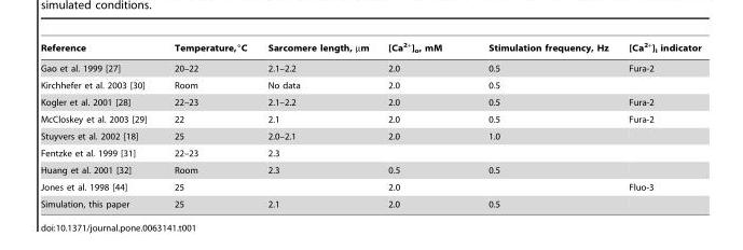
<table><thead><tr><td>Reference</td><td>Temperature,°C</td><td>Sarcomere length, µm</td><td>[Ca<sup>2+</sup>]<sub>o</sub>, mM</td><td>Stimulation frequency, Hz</td><td>[Ca<sup>2+</sup>]<sub>i</sub> indicator</td></tr></thead><tbody><tr><td>Gao et al. 1999 [27]</td><td>20–22</td><td>2.1–2.2</td><td>2.0</td><td>0.5</td><td>Fura-2</td></tr><tr><td>Kirchhefer et al. 2003 [30]</td><td>Room</td><td>No data</td><td>2.0</td><td>0.5</td><td></td></tr><tr><td>Kogler et al. 2001 [28]</td><td>22–23</td><td>2.1–2.2</td><td>2.0</td><td>0.5</td><td>Fura-2</td></tr><tr><td>McCloskey et al. 2003 [29]</td><td>22</td><td>2.1</td><td>2.0</td><td>0.5</td><td>Fura-2</td></tr><tr><td>Stuyvers et al. 2002 [18]</td><td>25</td><td>2.0–2.1</td><td>2.0</td><td>1.0</td><td></td></tr><tr><td>Fentzke et al. 1999 [31]</td><td>22–23</td><td>2.3</td><td></td><td></td><td></td></tr><tr><td>Huang et al. 2001 [32]</td><td>Room</td><td>2.3</td><td>0.5</td><td>0.5</td><td></td></tr><tr><td>Jones et al. 1998 [44]</td><td>25</td><td></td><td>2.0</td><td></td><td>Fluo-3</td></tr><tr><td>Simulation, this paper</td><td>25</td><td>2.1</td><td>2.0</td><td>0.5</td><td></td></tr></tbody></table>